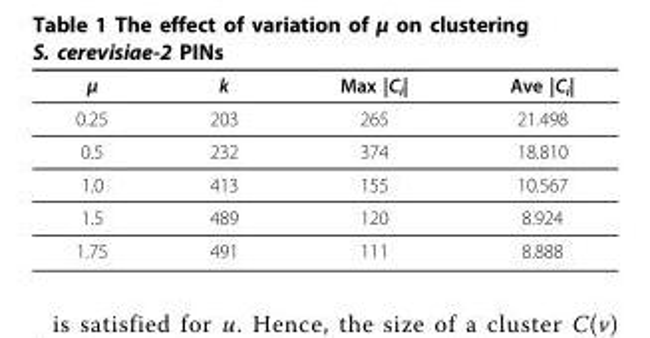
<table><thead><tr><td>μ</td><td>k</td><td>Max |C<sub>i</sub>|</td><td>Ave |C<sub>i</sub>|</td></tr></thead><tbody><tr><td>0.25</td><td>203</td><td>265</td><td>21.498</td></tr><tr><td>0.5</td><td>232</td><td>374</td><td>18.810</td></tr><tr><td>1.0</td><td>413</td><td>155</td><td>10.567</td></tr><tr><td>1.5</td><td>489</td><td>120</td><td>8.924</td></tr><tr><td>1.75</td><td>491</td><td>111</td><td>8.888</td></tr></tbody></table>